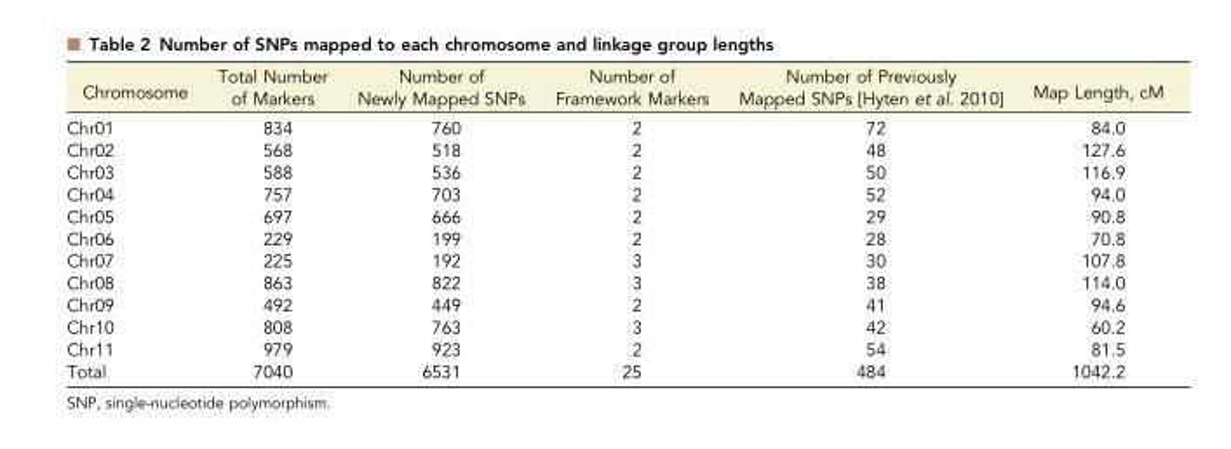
<table><thead><tr><td>Chromosome</td><td>Total Number of Markers</td><td>Number of Newly Mapped SNPs</td><td>Number of Framework Markers</td><td>Number of Previously Mapped SNPs [Hyten et al. 2010]</td><td>Map Length, cM</td></tr></thead><tbody><tr><td>Chr01</td><td>834</td><td>760</td><td>2</td><td>72</td><td>84.0</td></tr><tr><td>Chr02</td><td>568</td><td>518</td><td>2</td><td>48</td><td>127.6</td></tr><tr><td>Chr03</td><td>588</td><td>536</td><td>2</td><td>50</td><td>116.9</td></tr><tr><td>Chr04</td><td>757</td><td>703</td><td>2</td><td>52</td><td>94.0</td></tr><tr><td>Chr05</td><td>697</td><td>666</td><td>2</td><td>29</td><td>90.8</td></tr><tr><td>Chr06</td><td>229</td><td>199</td><td>2</td><td>28</td><td>70.8</td></tr><tr><td>Chr07</td><td>225</td><td>192</td><td>3</td><td>30</td><td>107.8</td></tr><tr><td>Chr08</td><td>863</td><td>822</td><td>3</td><td>38</td><td>114.0</td></tr><tr><td>Chr09</td><td>492</td><td>449</td><td>2</td><td>41</td><td>94.6</td></tr><tr><td>Chr10</td><td>808</td><td>763</td><td>3</td><td>42</td><td>60.2</td></tr><tr><td>Chr11</td><td>979</td><td>923</td><td>2</td><td>54</td><td>81.5</td></tr><tr><td>Total</td><td>7040</td><td>6531</td><td>25</td><td>484</td><td>1042.2</td></tr></tbody></table>